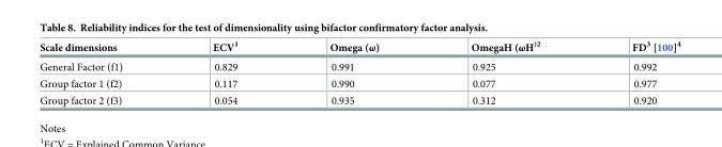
<table><thead><tr><td>Scale dimensions</td><td>ECV<sup>1</sup></td><td>Omega (ω)</td><td>OmegaH (ωH<sup>)2</sup></td><td>FD<sup>3</sup> [100]<sup>4</sup></td></tr></thead><tbody><tr><td>General Factor (f1)</td><td>0.829</td><td>0.991</td><td>0.925</td><td>0.992</td></tr><tr><td>Group factor 1 (f2)</td><td>0.117</td><td>0.990</td><td>0.077</td><td>0.977</td></tr><tr><td>Group factor 2 (f3)</td><td>0.054</td><td>0.935</td><td>0.312</td><td>0.920</td></tr></tbody></table>